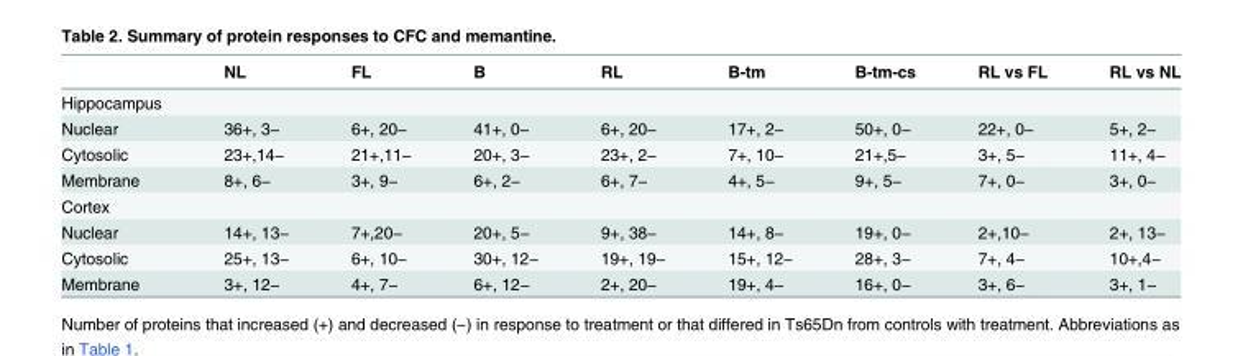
<table><thead><tr><td></td><td>NL</td><td>FL</td><td>B</td><td>RL</td><td>B-tm</td><td>B-tm-cs</td><td>RL vs FL</td><td>RL vs NL</td></tr></thead><tbody><tr><td colspan="9">Hippocampus</td></tr><tr><td>Nuclear</td><td>36+, 3−</td><td>6+, 20−</td><td>41+, 0−</td><td>6+, 20−</td><td>17+, 2−</td><td>50+, 0−</td><td>22+, 0−</td><td>5+, 2−</td></tr><tr><td>Cytosolic</td><td>23+,14−</td><td>21+,11−</td><td>20+, 3−</td><td>23+, 2−</td><td>7+, 10−</td><td>21+,5−</td><td>3+, 5−</td><td>11+, 4−</td></tr><tr><td>Membrane</td><td>8+, 6−</td><td>3+, 9−</td><td>6+, 2−</td><td>6+, 7−</td><td>4+, 5−</td><td>9+, 5−</td><td>7+, 0−</td><td>3+, 0−</td></tr><tr><td colspan="9">Cortex</td></tr><tr><td>Nuclear</td><td>14+, 13−</td><td>7+,20−</td><td>20+, 5−</td><td>9+, 38−</td><td>14+, 8−</td><td>19+, 0−</td><td>2+,10−</td><td>2+, 13−</td></tr><tr><td>Cytosolic</td><td>25+, 13−</td><td>6+, 10−</td><td>30+, 12−</td><td>19+, 19−</td><td>15+, 12−</td><td>28+, 3−</td><td>7+, 4−</td><td>10+,4−</td></tr><tr><td>Membrane</td><td>3+, 12−</td><td>4+, 7−</td><td>6+, 12−</td><td>2+, 20−</td><td>19+, 4−</td><td>16+, 0−</td><td>3+, 6−</td><td>3+, 1−</td></tr></tbody></table>